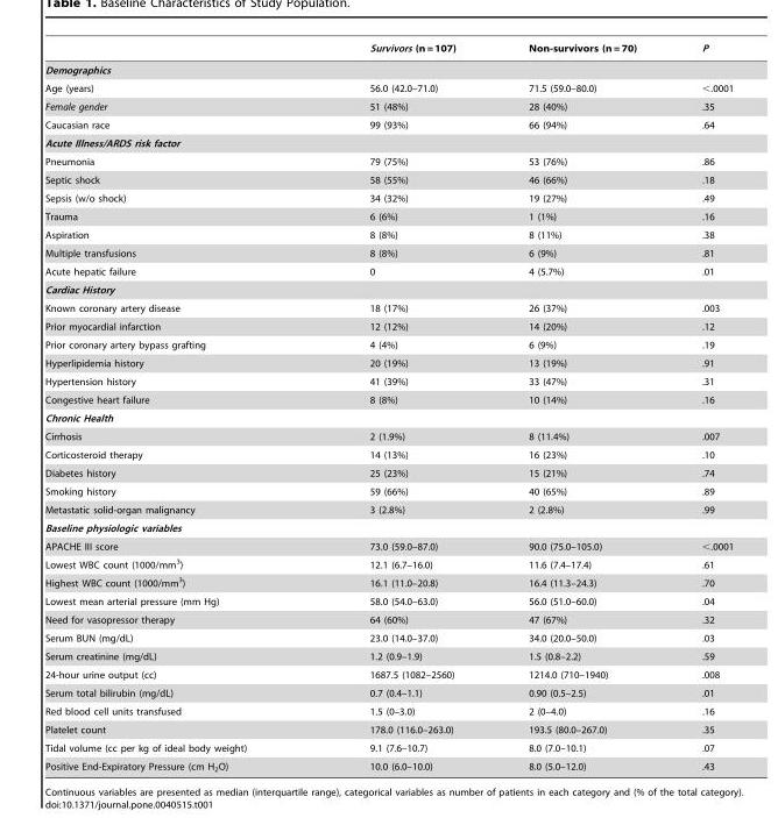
<table><thead><tr><td></td><td>Survivors (n = 107)</td><td>Non-survivors (n = 70)</td><td>P</td></tr></thead><tbody><tr><td colspan="4">Demographics</td></tr><tr><td>Age (years)</td><td>56.0 (42.0–71.0)</td><td>71.5 (59.0–80.0)</td><td>&lt;.0001</td></tr><tr><td>Female gender</td><td>51 (48%)</td><td>28 (40%)</td><td>.35</td></tr><tr><td>Caucasian race</td><td>99 (93%)</td><td>66 (94%)</td><td>.64</td></tr><tr><td colspan="4">Acute Illness/ARDS risk factor</td></tr><tr><td>Pneumonia</td><td>79 (75%)</td><td>53 (76%)</td><td>.86</td></tr><tr><td>Septic shock</td><td>58 (55%)</td><td>46 (66%)</td><td>.18</td></tr><tr><td>Sepsis (w/o shock)</td><td>34 (32%)</td><td>19 (27%)</td><td>.49</td></tr><tr><td>Trauma</td><td>6 (6%)</td><td>1 (1%)</td><td>.16</td></tr><tr><td>Aspiration</td><td>8 (8%)</td><td>8 (11%)</td><td>.38</td></tr><tr><td>Multiple transfusions</td><td>8 (8%)</td><td>6 (9%)</td><td>.81</td></tr><tr><td>Acute hepatic failure</td><td>0</td><td>4 (5.7%)</td><td>.01</td></tr><tr><td colspan="4">Cardiac History</td></tr><tr><td>Known coronary artery disease</td><td>18 (17%)</td><td>26 (37%)</td><td>.003</td></tr><tr><td>Prior myocardial infarction</td><td>12 (12%)</td><td>14 (20%)</td><td>.12</td></tr><tr><td>Prior coronary artery bypass grafting</td><td>4 (4%)</td><td>6 (9%)</td><td>.19</td></tr><tr><td>Hyperlipidemia history</td><td>20 (19%)</td><td>13 (19%)</td><td>.91</td></tr><tr><td>Hypertension history</td><td>41 (39%)</td><td>33 (47%)</td><td>.31</td></tr><tr><td>Congestive heart failure</td><td>8 (8%)</td><td>10 (14%)</td><td>.16</td></tr><tr><td colspan="4">Chronic Health</td></tr><tr><td>Cirrhosis</td><td>2 (1.9%)</td><td>8 (11.4%)</td><td>.007</td></tr><tr><td>Corticosteroid therapy</td><td>14 (13%)</td><td>16 (23%)</td><td>.10</td></tr><tr><td>Diabetes history</td><td>25 (23%)</td><td>15 (21%)</td><td>.74</td></tr><tr><td>Smoking history</td><td>59 (66%)</td><td>40 (65%)</td><td>.89</td></tr><tr><td>Metastatic solid-organ malignancy</td><td>3 (2.8%)</td><td>2 (2.8%)</td><td>.99</td></tr><tr><td colspan="4">Baseline physiologic variables</td></tr><tr><td>APACHE III score</td><td>73.0 (59.0–87.0)</td><td>90.0 (75.0–105.0)</td><td>&lt;.0001</td></tr><tr><td>Lowest WBC count (1000/mm<sup>3</sup>)</td><td>12.1 (6.7–16.0)</td><td>11.6 (7.4–17.4)</td><td>.61</td></tr><tr><td>Highest WBC count (1000/mm<sup>3</sup>)</td><td>16.1 (11.0–20.8)</td><td>16.4 (11.3–24.3)</td><td>.70</td></tr><tr><td>Lowest mean arterial pressure (mm Hg)</td><td>58.0 (54.0–63.0)</td><td>56.0 (51.0–60.0)</td><td>.04</td></tr><tr><td>Need for vasopressor therapy</td><td>64 (60%)</td><td>47 (67%)</td><td>.32</td></tr><tr><td>Serum BUN (mg/dL)</td><td>23.0 (14.0–37.0)</td><td>34.0 (20.0–50.0)</td><td>.03</td></tr><tr><td>Serum creatinine (mg/dL)</td><td>1.2 (0.9–1.9)</td><td>1.5 (0.8–2.2)</td><td>.59</td></tr><tr><td>24-hour urine output (cc)</td><td>1687.5 (1082–2560)</td><td>1214.0 (710–1940)</td><td>.008</td></tr><tr><td>Serum total bilirubin (mg/dL)</td><td>0.7 (0.4–1.1)</td><td>0.90 (0.5–2.5)</td><td>.01</td></tr><tr><td>Red blood cell units transfused</td><td>1.5 (0–3.0)</td><td>2 (0–4.0)</td><td>.16</td></tr><tr><td>Platelet count</td><td>178.0 (116.0–263.0)</td><td>193.5 (80.0–267.0)</td><td>.35</td></tr><tr><td>Tidal volume (cc per kg of ideal body weight)</td><td>9.1 (7.6–10.7)</td><td>8.0 (7.0–10.1)</td><td>.07</td></tr><tr><td>Positive End-Expiratory Pressure (cm H<sub>2</sub>O)</td><td>10.0 (6.0–10.0)</td><td>8.0 (5.0–12.0)</td><td>.43</td></tr></tbody></table>